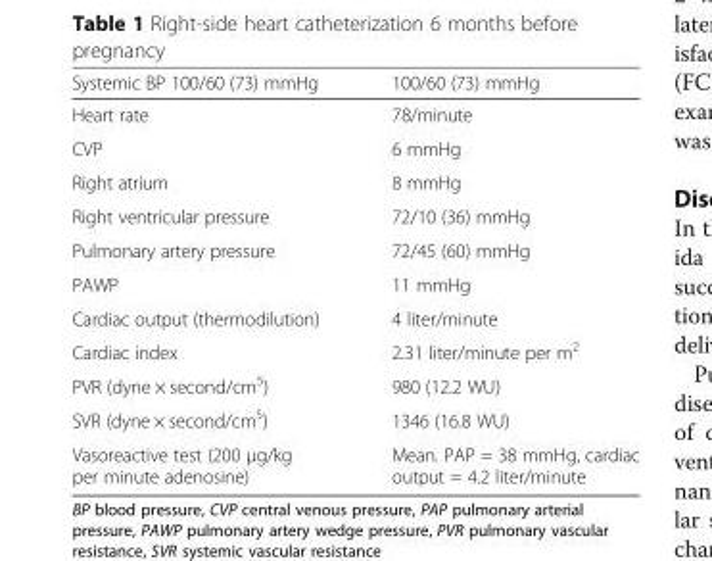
<table><thead><tr><td>Systemic BP 100/60 (73) mmHg</td><td>100/60 (73) mmHg</td></tr></thead><tbody><tr><td>Heart rate</td><td>78/minute</td></tr><tr><td>CVP</td><td>6 mmHg</td></tr><tr><td>Right atrium</td><td>8 mmHg</td></tr><tr><td>Right ventricular pressure</td><td>72/10 (36) mmHg</td></tr><tr><td>Pulmonary artery pressure</td><td>72/45 (60) mmHg</td></tr><tr><td>PAWP</td><td>11 mmHg</td></tr><tr><td>Cardiac output (thermodilution)</td><td>4 liter/minute</td></tr><tr><td>Cardiac index</td><td>2.31 liter/minute per m<sup>2</sup></td></tr><tr><td>PVR (dyne × second/cm<sup>5</sup>)</td><td>980 (12.2 WU)</td></tr><tr><td>SVR (dyne × second/cm<sup>5</sup>)</td><td>1346 (16.8 WU)</td></tr><tr><td>Vasoreactive test (200 μg/kg per minute adenosine)</td><td>Mean. PAP = 38 mmHg, cardiac output = 4.2 liter/minute</td></tr></tbody></table>